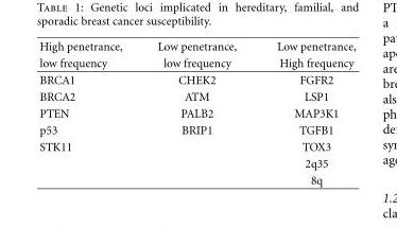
<table><thead><tr><td rowspan="2">High penetrance, low frequency</td><td rowspan="2">Low penetrance, low frequency</td><td rowspan="2">Low penetrance, High frequency</td></tr><tr></tr></thead><tbody><tr><td>BRCA1</td><td>CHEK2</td><td>FGFR2</td></tr><tr><td>BRCA2</td><td>ATM</td><td>LSP1</td></tr><tr><td>PTEN</td><td>PALB2</td><td>MAP3K1</td></tr><tr><td>p53</td><td>BRIP1</td><td>TGFB1</td></tr><tr><td rowspan="3">STK11</td><td></td><td>TOX3</td></tr><tr><td></td><td>2q35</td></tr><tr><td></td><td>8q</td></tr></tbody></table>